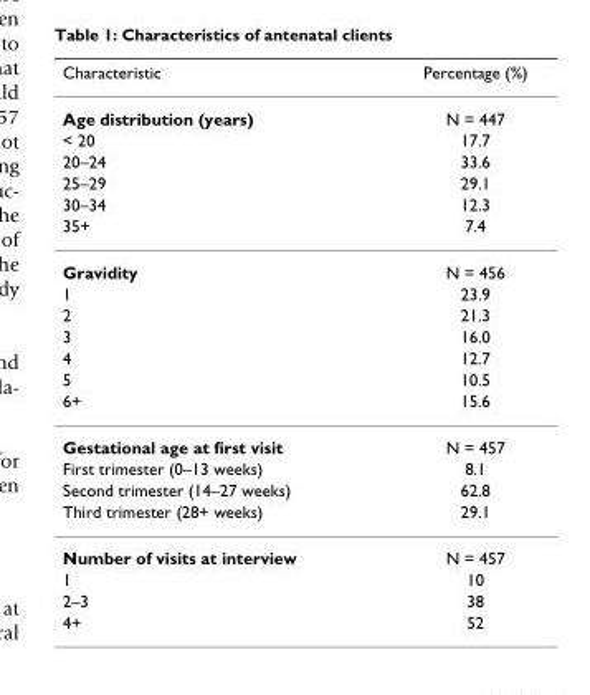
<table><thead><tr><td>Characteristic</td><td>Percentage (%)</td></tr></thead><tbody><tr><td>Age distribution (years)</td><td>N = 447</td></tr><tr><td>&lt; 20</td><td>17.7</td></tr><tr><td>20–24</td><td>33.6</td></tr><tr><td>25–29</td><td>29.1</td></tr><tr><td>30–34</td><td>12.3</td></tr><tr><td>35+</td><td>7.4</td></tr><tr><td>Gravidity</td><td>N = 456</td></tr><tr><td>1</td><td>23.9</td></tr><tr><td>2</td><td>21.3</td></tr><tr><td>3</td><td>16.0</td></tr><tr><td>4</td><td>12.7</td></tr><tr><td>5</td><td>10.5</td></tr><tr><td>6+</td><td>15.6</td></tr><tr><td>Gestational age at first visit</td><td>N = 457</td></tr><tr><td>First trimester (0–13 weeks)</td><td>8.1</td></tr><tr><td>Second trimester (14–27 weeks)</td><td>62.8</td></tr><tr><td>Third trimester (28+ weeks)</td><td>29.1</td></tr><tr><td>Number of visits at interview</td><td>N = 457</td></tr><tr><td>1</td><td>10</td></tr><tr><td>2–3</td><td>38</td></tr><tr><td>4+</td><td>52</td></tr></tbody></table>